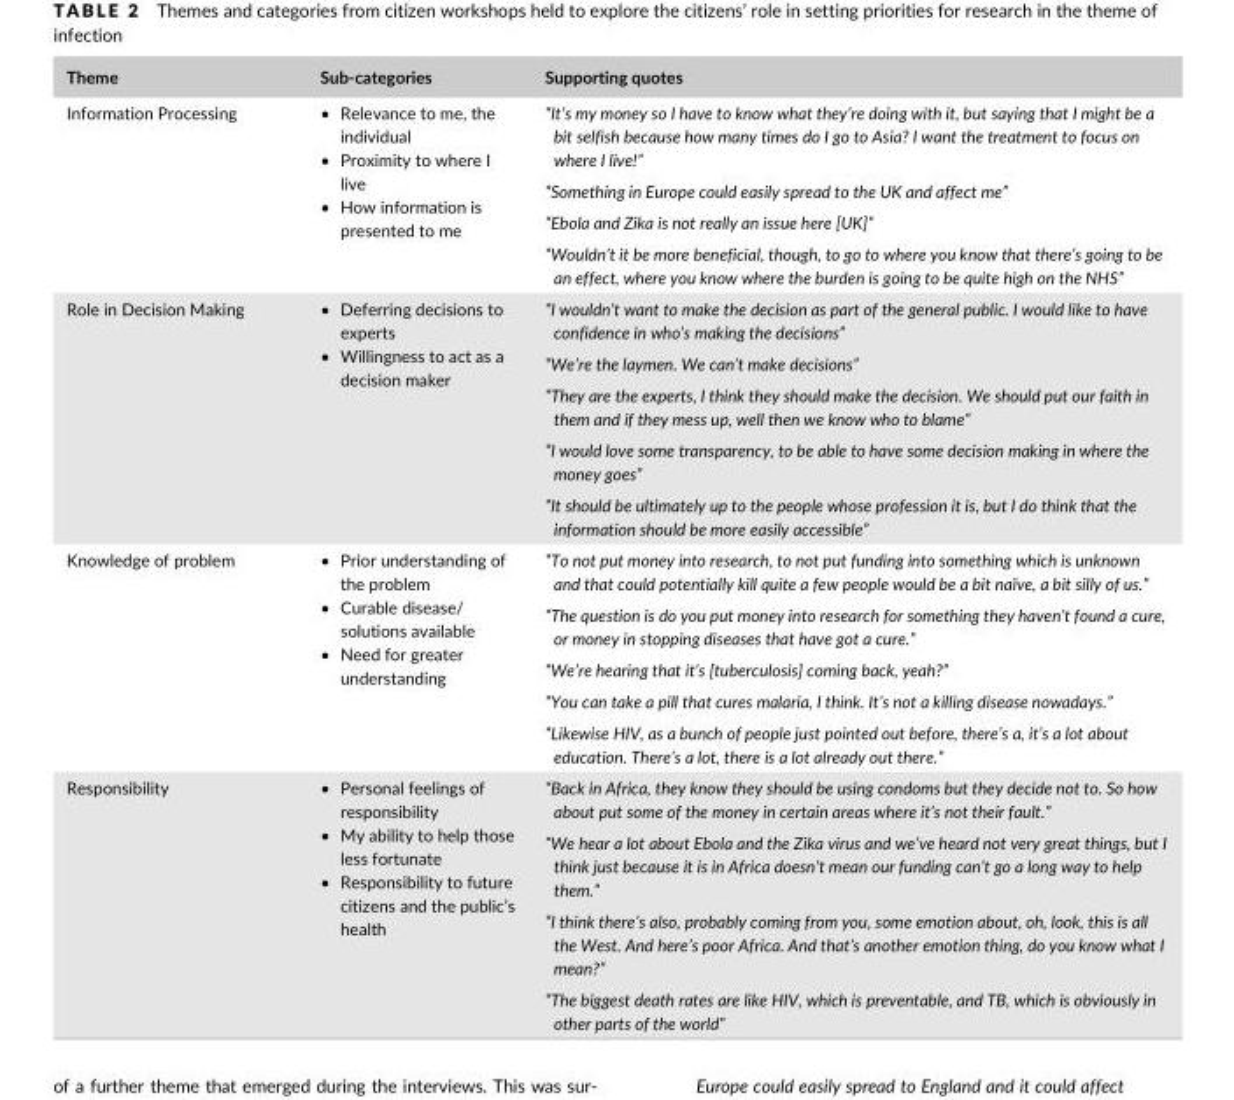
<table><thead><tr><td>Theme</td><td>Sub- categories</td><td>Supporting quotes</td></tr></thead><tbody><tr><td rowspan="4">Information Processing</td><td rowspan="4">• Relevance to me, the individual • Proximity to where I live • How information is presented to me</td><td>“It’s my money so I have to know what they’re doing with it, but saying that I might be a bit selfish because how many times do I go to Asia? I want the treatment to focus on where I live!”</td></tr><tr><td>“Something in Europe could easily spread to the UK and affect me”</td></tr><tr><td>“Ebola and Zika is not really an issue here [UK]”</td></tr><tr><td>“Wouldn’t it be more beneficial, though, to go to where you know that there’s going to be an effect, where you know where the burden is going to be quite high on the NHS”</td></tr><tr><td rowspan="5">Role in Decision Making</td><td rowspan="5">• Deferring decisions to experts • Willingness to act as a decision maker</td><td>“I wouldn’t want to make the decision as part of the general public. I would like to have confidence in who’s making the decisions”</td></tr><tr><td>“We’re the laymen. We can’t make decisions”</td></tr><tr><td>“They are the experts, I think they should make the decision. We should put our faith in them and if they mess up, well then we know who to blame”</td></tr><tr><td>“I would love some transparency, to be able to have some decision making in where the money goes”</td></tr><tr><td>“It should be ultimately up to the people whose profession it is, but I do think that the information should be more easily accessible”</td></tr><tr><td rowspan="5">Knowledge of problem</td><td rowspan="5">• Prior understanding of the problem • Curable disease/ solutions available • Need for greater understanding</td><td>“To not put money into research, to not put funding into something which is unknown and that could potentially kill quite a few people would be a bit naïve, a bit silly of us.”</td></tr><tr><td>“The question is do you put money into research for something they haven’t found a cure, or money in stopping diseases that have got a cure.”</td></tr><tr><td>“We’re hearing that it’s [tuberculosis] coming back, yeah?”</td></tr><tr><td>“You can take a pill that cures malaria, I think. It’s not a killing disease nowadays.”</td></tr><tr><td>“Likewise HIV, as a bunch of people just pointed out before, there’s a, it’s a lot about education. There’s a lot, there is a lot already out there.”</td></tr><tr><td rowspan="4">Responsibility</td><td rowspan="4">• Personal feelings of responsibility • My ability to help those less fortunate • Responsibility to future citizens and the public’s health</td><td>“Back in Africa, they know they should be using condoms but they decide not to. So how about put some of the money in certain areas where it’s not their fault.”</td></tr><tr><td>“We hear a lot about Ebola and the Zika virus and we’ve heard not very great things, but I think just because it is in Africa doesn’t mean our funding can’t go a long way to help them.”</td></tr><tr><td>“I think there’s also, probably coming from you, some emotion about, oh, look, this is all the West. And here’s poor Africa. And that’s another emotion thing, do you know what I mean?”</td></tr><tr><td>“The biggest death rates are like HIV, which is preventable, and TB, which is obviously in other parts of the world”</td></tr></tbody></table>